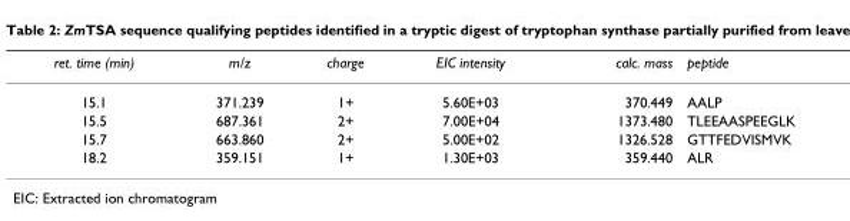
<table><thead><tr><td>ret. time (min)</td><td>m/z</td><td>charge</td><td>EIC intensity</td><td>calc. mass</td><td>peptide</td></tr></thead><tbody><tr><td>15.1</td><td>371.239</td><td>1+</td><td>5.60E+03</td><td>370.449</td><td>AALP</td></tr><tr><td>15.5</td><td>687.361</td><td>2+</td><td>7.00E+04</td><td>1373.480</td><td>TLEEAASPEEGLK</td></tr><tr><td>15.7</td><td>663.860</td><td>2+</td><td>5.00E+02</td><td>1326.528</td><td>GTTFEDVISMVK</td></tr><tr><td>18.2</td><td>359.151</td><td>1+</td><td>1.30E+03</td><td>359.440</td><td>ALR</td></tr></tbody></table>